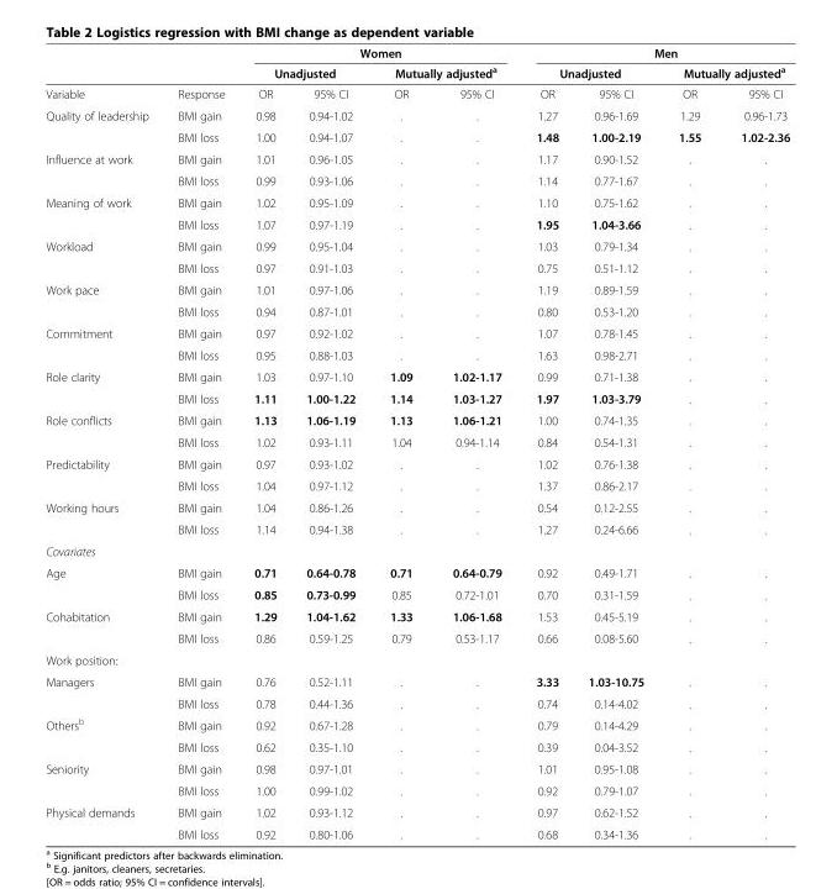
<table><thead><tr><td rowspan="3">Variable</td><td rowspan="3">Response</td><td colspan="4">Women</td><td colspan="4">Men</td></tr><tr><td colspan="2">Unadjusted</td><td colspan="2">Mutually adjusted<sup>a</sup></td><td colspan="2">Unadjusted</td><td colspan="2">Mutually adjusted<sup>a</sup></td></tr><tr><td>OR</td><td>95% CI</td><td>OR</td><td>95% CI</td><td>OR</td><td>95% CI</td><td>OR</td><td>95% CI</td></tr></thead><tbody><tr><td rowspan="2">Quality of leadership</td><td>BMI gain</td><td>0.98</td><td>0.94-1.02</td><td>.</td><td>.</td><td>1.27</td><td>0.96-1.69</td><td>1.29</td><td>0.96-1.73</td></tr><tr><td>BMI loss</td><td>1.00</td><td>0.94-1.07</td><td>.</td><td>.</td><td>1.48</td><td>1.00-2.19</td><td>1.55</td><td>1.02-2.36</td></tr><tr><td rowspan="2">Influence at work</td><td>BMI gain</td><td>1.01</td><td>0.96-1.05</td><td>.</td><td>.</td><td>1.17</td><td>0.90-1.52</td><td>.</td><td>.</td></tr><tr><td>BMI loss</td><td>0.99</td><td>0.93-1.06</td><td>.</td><td>.</td><td>1.14</td><td>0.77-1.67</td><td>.</td><td>.</td></tr><tr><td rowspan="2">Meaning of work</td><td>BMI gain</td><td>1.02</td><td>0.95-1.09</td><td>.</td><td>.</td><td>1.10</td><td>0.75-1.62</td><td>.</td><td>.</td></tr><tr><td>BMI loss</td><td>1.07</td><td>0.97-1.19</td><td>.</td><td>.</td><td>1.95</td><td>1.04-3.66</td><td>.</td><td>.</td></tr><tr><td rowspan="2">Workload</td><td>BMI gain</td><td>0.99</td><td>0.95-1.04</td><td>.</td><td>.</td><td>1.03</td><td>0.79-1.34</td><td>.</td><td>.</td></tr><tr><td>BMI loss</td><td>0.97</td><td>0.91-1.03</td><td>.</td><td>.</td><td>0.75</td><td>0.51-1.12</td><td>.</td><td>.</td></tr><tr><td rowspan="2">Work pace</td><td>BMI gain</td><td>1.01</td><td>0.97-1.06</td><td>.</td><td>.</td><td>1.19</td><td>0.89-1.59</td><td>.</td><td>.</td></tr><tr><td>BMI loss</td><td>0.94</td><td>0.87-1.01</td><td>.</td><td>.</td><td>0.80</td><td>0.53-1.20</td><td>.</td><td>.</td></tr><tr><td rowspan="2">Commitment</td><td>BMI gain</td><td>0.97</td><td>0.92-1.02</td><td>.</td><td>.</td><td>1.07</td><td>0.78-1.45</td><td>.</td><td>.</td></tr><tr><td>BMI loss</td><td>0.95</td><td>0.88-1.03</td><td>.</td><td>.</td><td>1.63</td><td>0.98-2.71</td><td>.</td><td>.</td></tr><tr><td rowspan="2">Role clarity</td><td>BMI gain</td><td>1.03</td><td>0.97-1.10</td><td>1.09</td><td>1.02-1.17</td><td>0.99</td><td>0.71-1.38</td><td>.</td><td>.</td></tr><tr><td>BMI loss</td><td>1.11</td><td>1.00-1.22</td><td>1.14</td><td>1.03-1.27</td><td>1.97</td><td>1.03-3.79</td><td>.</td><td>.</td></tr><tr><td rowspan="2">Role conflicts</td><td>BMI gain</td><td>1.13</td><td>1.06-1.19</td><td>1.13</td><td>1.06-1.21</td><td>1.00</td><td>0.74-1.35</td><td>.</td><td>.</td></tr><tr><td>BMI loss</td><td>1.02</td><td>0.93-1.11</td><td>1.04</td><td>0.94-1.14</td><td>0.84</td><td>0.54-1.31</td><td>.</td><td>.</td></tr><tr><td rowspan="2">Predictability</td><td>BMI gain</td><td>0.97</td><td>0.93-1.02</td><td>.</td><td>.</td><td>1.02</td><td>0.76-1.38</td><td>.</td><td>.</td></tr><tr><td>BMI loss</td><td>1.04</td><td>0.97-1.12</td><td>.</td><td>.</td><td>1.37</td><td>0.86-2.17</td><td>.</td><td>.</td></tr><tr><td rowspan="2">Working hours</td><td>BMI gain</td><td>1.04</td><td>0.86-1.26</td><td>.</td><td>.</td><td>0.54</td><td>0.12-2.55</td><td>.</td><td>.</td></tr><tr><td>BMI loss</td><td>1.14</td><td>0.94-1.38</td><td>.</td><td>.</td><td>1.27</td><td>0.24-6.66</td><td>.</td><td>.</td></tr><tr><td colspan="10">Covariates</td></tr><tr><td rowspan="2">Age</td><td>BMI gain</td><td>0.71</td><td>0.64-0.78</td><td>0.71</td><td>0.64-0.79</td><td>0.92</td><td>0.49-1.71</td><td>.</td><td>.</td></tr><tr><td>BMI loss</td><td>0.85</td><td>0.73-0.99</td><td>0.85</td><td>0.72-1.01</td><td>0.70</td><td>0.31-1.59</td><td>.</td><td>.</td></tr><tr><td rowspan="2">Cohabitation</td><td>BMI gain</td><td>1.29</td><td>1.04-1.62</td><td>1.33</td><td>1.06-1.68</td><td>1.53</td><td>0.45-5.19</td><td>.</td><td>.</td></tr><tr><td>BMI loss</td><td>0.86</td><td>0.59-1.25</td><td>0.79</td><td>0.53-1.17</td><td>0.66</td><td>0.08-5.60</td><td>.</td><td>.</td></tr><tr><td colspan="10">Work position:</td></tr><tr><td rowspan="2">Managers</td><td>BMI gain</td><td>0.76</td><td>0.52-1.11</td><td>.</td><td>.</td><td>3.33</td><td>1.03-10.75</td><td>.</td><td>.</td></tr><tr><td>BMI loss</td><td>0.78</td><td>0.44-1.36</td><td>.</td><td>.</td><td>0.74</td><td>0.14-4.02</td><td>.</td><td>.</td></tr><tr><td rowspan="2">Others<sup>b</sup></td><td>BMI gain</td><td>0.92</td><td>0.67-1.28</td><td>.</td><td>.</td><td>0.79</td><td>0.14-4.29</td><td>.</td><td>.</td></tr><tr><td>BMI loss</td><td>0.62</td><td>0.35-1.10</td><td>.</td><td>.</td><td>0.39</td><td>0.04-3.52</td><td>.</td><td>.</td></tr><tr><td rowspan="2">Seniority</td><td>BMI gain</td><td>0.98</td><td>0.97-1.01</td><td>.</td><td>.</td><td>1.01</td><td>0.95-1.08</td><td>.</td><td>.</td></tr><tr><td>BMI loss</td><td>1.00</td><td>0.99-1.02</td><td>.</td><td>.</td><td>0.92</td><td>0.79-1.07</td><td>.</td><td>.</td></tr><tr><td rowspan="2">Physical demands</td><td>BMI gain</td><td>1.02</td><td>0.93-1.12</td><td>.</td><td>.</td><td>0.97</td><td>0.62-1.52</td><td>.</td><td>.</td></tr><tr><td>BMI loss</td><td>0.92</td><td>0.80-1.06</td><td>.</td><td>.</td><td>0.68</td><td>0.34-1.36</td><td>.</td><td>.</td></tr></tbody></table>